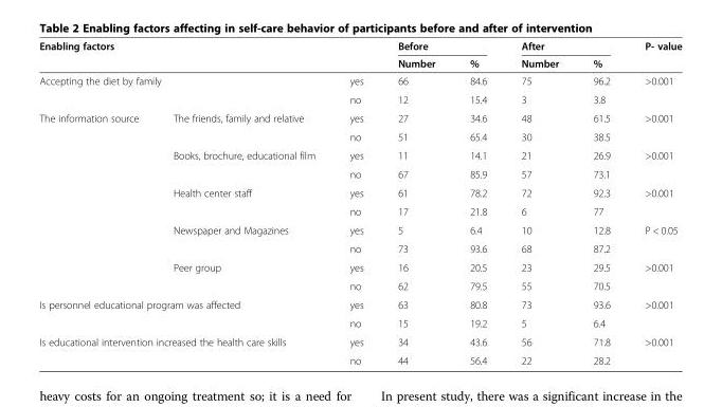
<table><thead><tr><td colspan="3">Enabling factors</td><td colspan="2">Before</td><td colspan="2">After</td><td rowspan="2">P- value</td></tr><tr><td></td><td></td><td></td><td>Number</td><td>%</td><td>Number</td><td>%</td></tr></thead><tbody><tr><td rowspan="2" colspan="2">Accepting the diet by family</td><td>yes</td><td>66</td><td>84.6</td><td>75</td><td>96.2</td><td>&gt;0.001</td></tr><tr><td>no</td><td>12</td><td>15.4</td><td>3</td><td>3.8</td><td></td></tr><tr><td rowspan="10">The information source</td><td rowspan="2">The friends, family and relative</td><td>yes</td><td>27</td><td>34.6</td><td>48</td><td>61.5</td><td>&gt;0.001</td></tr><tr><td>no</td><td>51</td><td>65.4</td><td>30</td><td>38.5</td><td></td></tr><tr><td rowspan="2">Books, brochure, educational film</td><td>yes</td><td>11</td><td>14.1</td><td>21</td><td>26.9</td><td>&gt;0.001</td></tr><tr><td>no</td><td>67</td><td>85.9</td><td>57</td><td>73.1</td><td></td></tr><tr><td rowspan="2">Health center staff</td><td>yes</td><td>61</td><td>78.2</td><td>72</td><td>92.3</td><td>&gt;0.001</td></tr><tr><td>no</td><td>17</td><td>21.8</td><td>6</td><td>77</td><td></td></tr><tr><td rowspan="2">Newspaper and Magazines</td><td>yes</td><td>5</td><td>6.4</td><td>10</td><td>12.8</td><td>P &lt; 0.05</td></tr><tr><td>no</td><td>73</td><td>93.6</td><td>68</td><td>87.2</td><td></td></tr><tr><td rowspan="2">Peer group</td><td>yes</td><td>16</td><td>20.5</td><td>23</td><td>29.5</td><td>&gt;0.001</td></tr><tr><td>no</td><td>62</td><td>79.5</td><td>55</td><td>70.5</td><td></td></tr><tr><td rowspan="2" colspan="2">Is personnel educational program was affected</td><td>yes</td><td>63</td><td>80.8</td><td>73</td><td>93.6</td><td>&gt;0.001</td></tr><tr><td>no</td><td>15</td><td>19.2</td><td>5</td><td>6.4</td><td></td></tr><tr><td rowspan="2" colspan="2">Is educational intervention increased the health care skills</td><td>yes</td><td>34</td><td>43.6</td><td>56</td><td>71.8</td><td>&gt;0.001</td></tr><tr><td>no</td><td>44</td><td>56.4</td><td>22</td><td>28.2</td><td></td></tr></tbody></table>